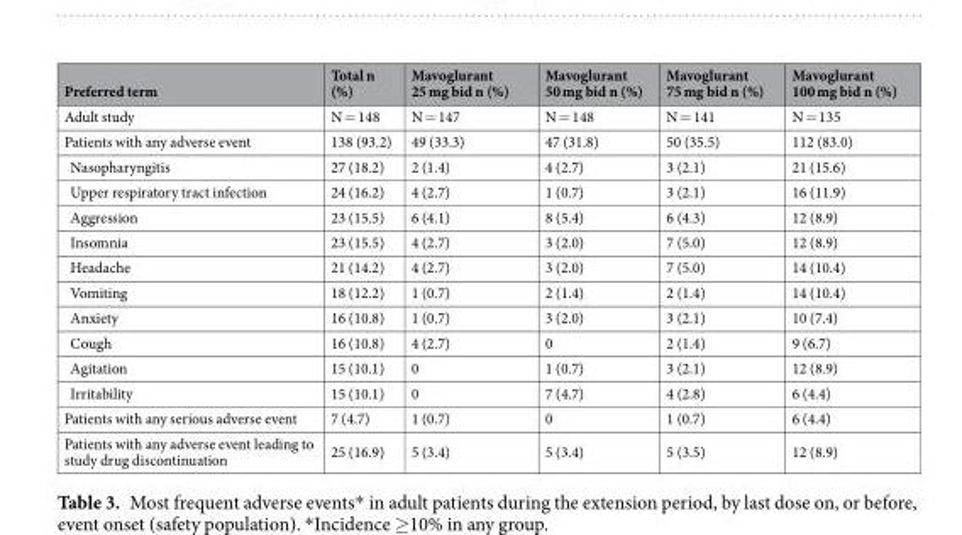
<table><thead><tr><td>Preferred term</td><td>Total n (%)</td><td>Mavoglurant 25 mg bid n (%)</td><td>Mavoglurant 50 mg bid n (%)</td><td>Mavoglurant 75 mg bid n (%)</td><td>Mavoglurant 100 mg bid n (%)</td></tr></thead><tbody><tr><td>Adult study</td><td>N = 148</td><td>N = 147</td><td>N = 148</td><td>N = 141</td><td>N = 135</td></tr><tr><td>Patients with any adverse event</td><td>138 (93.2)</td><td>49 (33.3)</td><td>47 (31.8)</td><td>50 (35.5)</td><td>112 (83.0)</td></tr><tr><td>Nasopharyngitis</td><td>27 (18.2)</td><td>2 (1.4)</td><td>4 (2.7)</td><td>3 (2.1)</td><td>21 (15.6)</td></tr><tr><td>Upper respiratory tract infection</td><td>24 (16.2)</td><td>4 (2.7)</td><td>1 (0.7)</td><td>3 (2.1)</td><td>16 (11.9)</td></tr><tr><td>Aggression</td><td>23 (15.5)</td><td>6 (4.1)</td><td>8 (5.4)</td><td>6 (4.3)</td><td>12 (8.9)</td></tr><tr><td>Insomnia</td><td>23 (15.5)</td><td>4 (2.7)</td><td>3 (2.0)</td><td>7 (5.0)</td><td>12 (8.9)</td></tr><tr><td>Headache</td><td>21 (14.2)</td><td>4 (2.7)</td><td>3 (2.0)</td><td>7 (5.0)</td><td>14 (10.4)</td></tr><tr><td>Vomiting</td><td>18 (12.2)</td><td>1 (0.7)</td><td>2 (1.4)</td><td>2 (1.4)</td><td>14 (10.4)</td></tr><tr><td>Anxiety</td><td>16 (10.8)</td><td>1 (0.7)</td><td>3 (2.0)</td><td>3 (2.1)</td><td>10 (7.4)</td></tr><tr><td>Cough</td><td>16 (10.8)</td><td>4 (2.7)</td><td>0</td><td>2 (1.4)</td><td>9 (6.7)</td></tr><tr><td>Agitation</td><td>15 (10.1)</td><td>0</td><td>1 (0.7)</td><td>3 (2.1)</td><td>12 (8.9)</td></tr><tr><td>Irritability</td><td>15 (10.1)</td><td>0</td><td>7 (4.7)</td><td>4 (2.8)</td><td>6 (4.4)</td></tr><tr><td>Patients with any serious adverse event</td><td>7 (4.7)</td><td>1 (0.7)</td><td>0</td><td>1 (0.7)</td><td>6 (4.4)</td></tr><tr><td>Patients with any adverse event leading to study drug discontinuation</td><td>25 (16.9)</td><td>5 (3.4)</td><td>5 (3.4)</td><td>5 (3.5)</td><td>12 (8.9)</td></tr></tbody></table>